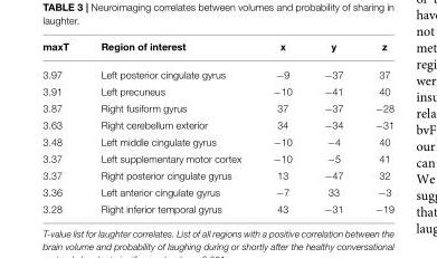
<table><thead><tr><td>maxT</td><td>Region of interest</td><td>x</td><td>y</td><td>z</td></tr></thead><tbody><tr><td>3.97</td><td>Left posterior cingulate gyrus</td><td>−9</td><td>−37</td><td>37</td></tr><tr><td>3.91</td><td>Left precuneus</td><td>−10</td><td>−41</td><td>40</td></tr><tr><td>3.87</td><td>Right fusiform gyrus</td><td>37</td><td>−37</td><td>−28</td></tr><tr><td>3.63</td><td>Right cerebellum exterior</td><td>34</td><td>−34</td><td>−31</td></tr><tr><td>3.48</td><td>Left middle cingulate gyrus</td><td>−10</td><td>−4</td><td>40</td></tr><tr><td>3.37</td><td>Left supplementary motor cortex</td><td>−10</td><td>−5</td><td>41</td></tr><tr><td>3.37</td><td>Right posterior cingulate gyrus</td><td>13</td><td>−47</td><td>32</td></tr><tr><td>3.36</td><td>Left anterior cingulate gyrus</td><td>−7</td><td>33</td><td>−3</td></tr><tr><td>3.28</td><td>Right inferior temporal gyrus</td><td>43</td><td>−31</td><td>−19</td></tr></tbody></table>